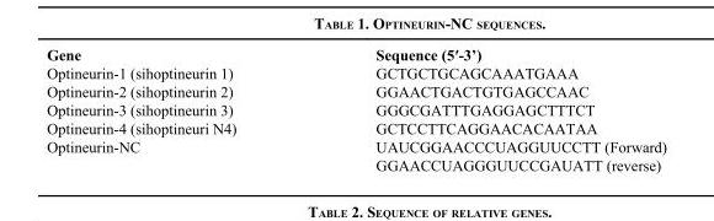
<table><thead><tr><td>Gene</td><td>Sequence (5′-3’)</td></tr></thead><tbody><tr><td>Optineurin-1 (sihoptineurin 1)</td><td>GCTGCTGCAGCAAATGAAA</td></tr><tr><td>Optineurin-2 (sihoptineurin 2)</td><td>GGAACTGACTGTGAGCCAAC</td></tr><tr><td>Optineurin-3 (sihoptineurin 3)</td><td>GGGCGATTTGAGGAGCTTTCT</td></tr><tr><td>Optineurin-4 (sihoptineuri N4)</td><td>GCTCCTTCAGGAACACAATAA</td></tr><tr><td rowspan="2">Optineurin-NC</td><td>UAUCGGAACCCUAGGUUCCTT (Forward)</td></tr><tr><td>GGAACCUAGGGUUCCGAUATT (reverse)</td></tr></tbody></table>